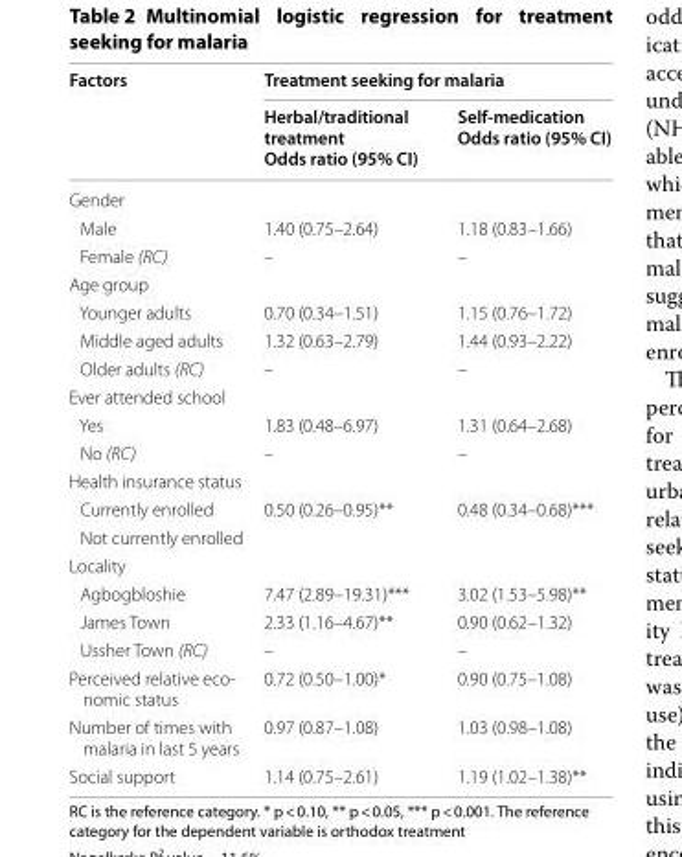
<table><thead><tr><td rowspan="2">Factors</td><td colspan="2">Treatment seeking for malaria</td></tr><tr><td>Herbal/traditional treatment Odds ratio (95% CI)</td><td>Self-medication Odds ratio (95% CI)</td></tr></thead><tbody><tr><td colspan="3">Gender</td></tr><tr><td>Male</td><td>1.40 (0.75–2.64)</td><td>1.18 (0.83–1.66)</td></tr><tr><td>Female (RC)</td><td>–</td><td>–</td></tr><tr><td colspan="3">Age group</td></tr><tr><td>Younger adults</td><td>0.70 (0.34–1.51)</td><td>1.15 (0.76–1.72)</td></tr><tr><td>Middle aged adults</td><td>1.32 (0.63–2.79)</td><td>1.44 (0.93–2.22)</td></tr><tr><td>Older adults (RC)</td><td>–</td><td>–</td></tr><tr><td colspan="3">Ever attended school</td></tr><tr><td>Yes</td><td>1.83 (0.48–6.97)</td><td>1.31 (0.64–2.68)</td></tr><tr><td>No (RC)</td><td>–</td><td>–</td></tr><tr><td colspan="3">Health insurance status</td></tr><tr><td>Currently enrolled</td><td>0.50 (0.26–0.95)**</td><td>0.48 (0.34–0.68)***</td></tr><tr><td colspan="3">Not currently enrolled</td></tr><tr><td colspan="3">Locality</td></tr><tr><td>Agbogbloshie</td><td>7.47 (2.89–19.31)***</td><td>3.02 (1.53–5.98)**</td></tr><tr><td>James Town</td><td>2.33 (1.16–4.67)**</td><td>0.90 (0.62–1.32)</td></tr><tr><td>Ussher Town (RC)</td><td>–</td><td>–</td></tr><tr><td>Perceived relative eco‑ nomic status</td><td>0.72 (0.50–1.00)*</td><td>0.90 (0.75–1.08)</td></tr><tr><td>Number of times with malaria in last 5 years</td><td>0.97 (0.87–1.08)</td><td>1.03 (0.98–1.08)</td></tr><tr><td>Social support</td><td>1.14 (0.75–2.61)</td><td>1.19 (1.02–1.38)**</td></tr></tbody></table>